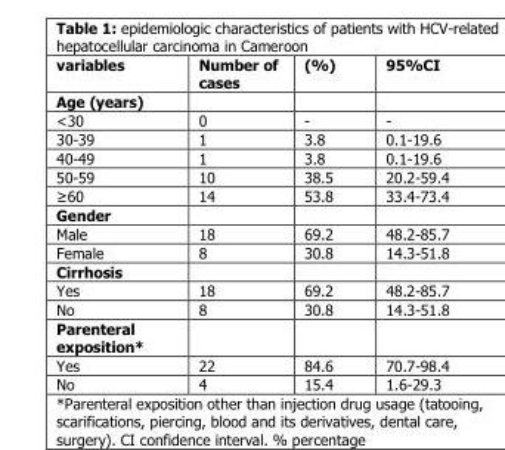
<table><thead><tr><td>variables</td><td>Number of cases</td><td>(%)</td><td>95%CI</td></tr></thead><tbody><tr><td colspan="4">Age (years)</td></tr><tr><td>&lt;30</td><td>0</td><td>-</td><td>-</td></tr><tr><td>30-39</td><td>1</td><td>3.8</td><td>0.1-19.6</td></tr><tr><td>40-49</td><td>1</td><td>3.8</td><td>0.1-19.6</td></tr><tr><td>50-59</td><td>10</td><td>38.5</td><td>20.2-59.4</td></tr><tr><td>≥60</td><td>14</td><td>53.8</td><td>33.4-73.4</td></tr><tr><td colspan="4">Gender</td></tr><tr><td>Male</td><td>18</td><td>69.2</td><td>48.2-85.7</td></tr><tr><td>Female</td><td>8</td><td>30.8</td><td>14.3-51.8</td></tr><tr><td colspan="4">Cirrhosis</td></tr><tr><td>Yes</td><td>18</td><td>69.2</td><td>48.2-85.7</td></tr><tr><td>No</td><td>8</td><td>30.8</td><td>14.3-51.8</td></tr><tr><td colspan="4">Parenteral exposition*</td></tr><tr><td>Yes</td><td>22</td><td>84.6</td><td>70.7-98.4</td></tr><tr><td>No</td><td>4</td><td>15.4</td><td>1.6-29.3</td></tr></tbody></table>